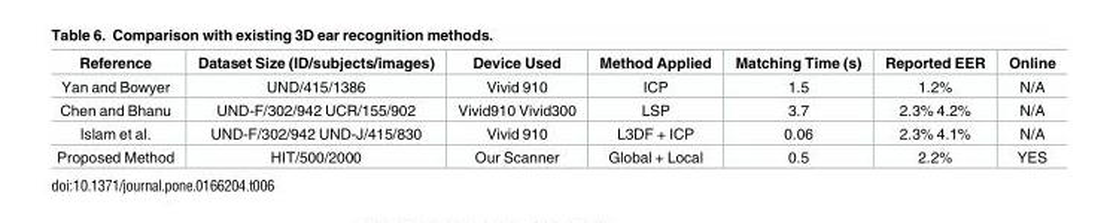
<table><thead><tr><td>Reference</td><td>Dataset Size (ID/subjects/images)</td><td>Device Used</td><td>Method Applied</td><td>Matching Time (s)</td><td>Reported EER</td><td>Online</td></tr></thead><tbody><tr><td>Yan and Bowyer</td><td>UND/415/1386</td><td>Vivid 910</td><td>ICP</td><td>1.5</td><td>1.2%</td><td>N/A</td></tr><tr><td>Chen and Bhanu</td><td>UND-F/302/942 UCR/155/902</td><td>Vivid910 Vivid300</td><td>LSP</td><td>3.7</td><td>2.3% 4.2%</td><td>N/A</td></tr><tr><td>Islam et al.</td><td>UND-F/302/942 UND-J/415/830</td><td>Vivid 910</td><td>L3DF + ICP</td><td>0.06</td><td>2.3% 4.1%</td><td>N/A</td></tr><tr><td>Proposed Method</td><td>HIT/500/2000</td><td>Our Scanner</td><td>Global + Local</td><td>0.5</td><td>2.2%</td><td>YES</td></tr></tbody></table>